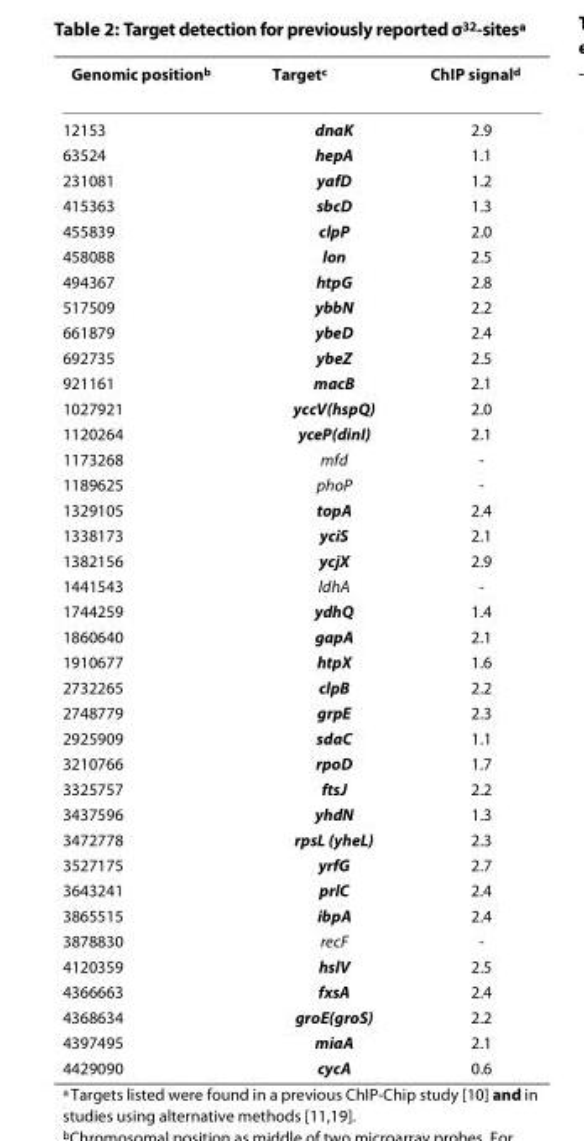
<table><thead><tr><td>Genomic position<sup>b</sup></td><td>Target<sup>c</sup></td><td>ChIP signal<sup>d</sup></td></tr></thead><tbody><tr><td>12153</td><td>dnaK</td><td>2.9</td></tr><tr><td>63524</td><td>hepA</td><td>1.1</td></tr><tr><td>231081</td><td>yafD</td><td>1.2</td></tr><tr><td>415363</td><td>sbcD</td><td>1.3</td></tr><tr><td>455839</td><td>clpP</td><td>2.0</td></tr><tr><td>458088</td><td>lon</td><td>2.5</td></tr><tr><td>494367</td><td>htpG</td><td>2.8</td></tr><tr><td>517509</td><td>ybbN</td><td>2.2</td></tr><tr><td>661879</td><td>ybeD</td><td>2.4</td></tr><tr><td>692735</td><td>ybeZ</td><td>2.5</td></tr><tr><td>921161</td><td>macB</td><td>2.1</td></tr><tr><td>1027921</td><td>yccV(hspQ)</td><td>2.0</td></tr><tr><td>1120264</td><td>yceP(dinI)</td><td>2.1</td></tr><tr><td>1173268</td><td>mfd</td><td>-</td></tr><tr><td>1189625</td><td>phoP</td><td>-</td></tr><tr><td>1329105</td><td>topA</td><td>2.4</td></tr><tr><td>1338173</td><td>yciS</td><td>2.1</td></tr><tr><td>1382156</td><td>ycjX</td><td>2.9</td></tr><tr><td>1441543</td><td>ldhA</td><td>-</td></tr><tr><td>1744259</td><td>ydhQ</td><td>1.4</td></tr><tr><td>1860640</td><td>gapA</td><td>2.1</td></tr><tr><td>1910677</td><td>htpX</td><td>1.6</td></tr><tr><td>2732265</td><td>clpB</td><td>2.2</td></tr><tr><td>2748779</td><td>grpE</td><td>2.3</td></tr><tr><td>2925909</td><td>sdaC</td><td>1.1</td></tr><tr><td>3210766</td><td>rpoD</td><td>1.7</td></tr><tr><td>3325757</td><td>ftsJ</td><td>2.2</td></tr><tr><td>3437596</td><td>yhdN</td><td>1.3</td></tr><tr><td>3472778</td><td>rpsL (yheL)</td><td>2.3</td></tr><tr><td>3527175</td><td>yrfG</td><td>2.7</td></tr><tr><td>3643241</td><td>prlC</td><td>2.4</td></tr><tr><td>3865515</td><td>ibpA</td><td>2.4</td></tr><tr><td>3878830</td><td>recF</td><td>-</td></tr><tr><td>4120359</td><td>hslV</td><td>2.5</td></tr><tr><td>4366663</td><td>fxsA</td><td>2.4</td></tr><tr><td>4368634</td><td>groE(groS)</td><td>2.2</td></tr><tr><td>4397495</td><td>miaA</td><td>2.1</td></tr><tr><td>4429090</td><td>cycA</td><td>0.6</td></tr></tbody></table>